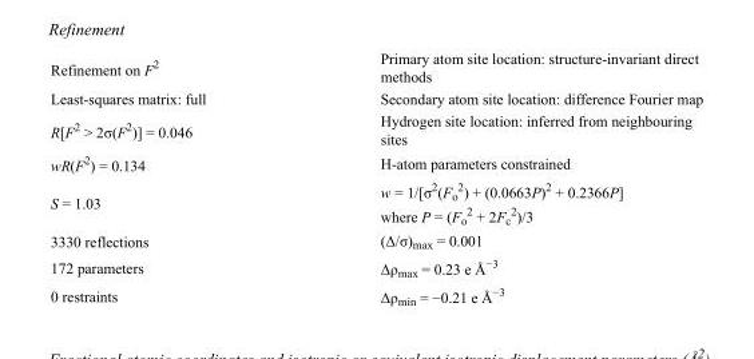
<table><tbody><tr><td>Refinement on F<sup>2</sup></td><td>Primary atom site location: structure-invariant direct methods</td></tr><tr><td>Least-squares matrix: full</td><td>Secondary atom site location: difference Fourier map</td></tr><tr><td>R[F<sup>2</sup> &gt; 2σ(F<sup>2</sup>)] = 0.046</td><td>Hydrogen site location: inferred from neighbouring sites</td></tr><tr><td>wR(F<sup>2</sup>) = 0.134</td><td>H-atom parameters constrained</td></tr><tr><td>S = 1.03</td><td>w = 1/[σ<sup>2</sup>(F<sub>o</sub> <sup>2</sup>) + (0.0663P)<sup>2</sup> + 0.2366P] where P = (F<sub>o</sub> <sup>2</sup> + 2F<sub>c</sub> <sup>2</sup>)/3</td></tr><tr><td>3330 reflections</td><td>(Δ/σ)<sub>max</sub> = 0.001</td></tr><tr><td>172 parameters</td><td>Δρ<sub>max</sub> = 0.23 e Å<sup>−3</sup></td></tr><tr><td>0 restraints</td><td>Δρ<sub>min</sub> = −0.21 e Å<sup>−3</sup></td></tr></tbody></table>